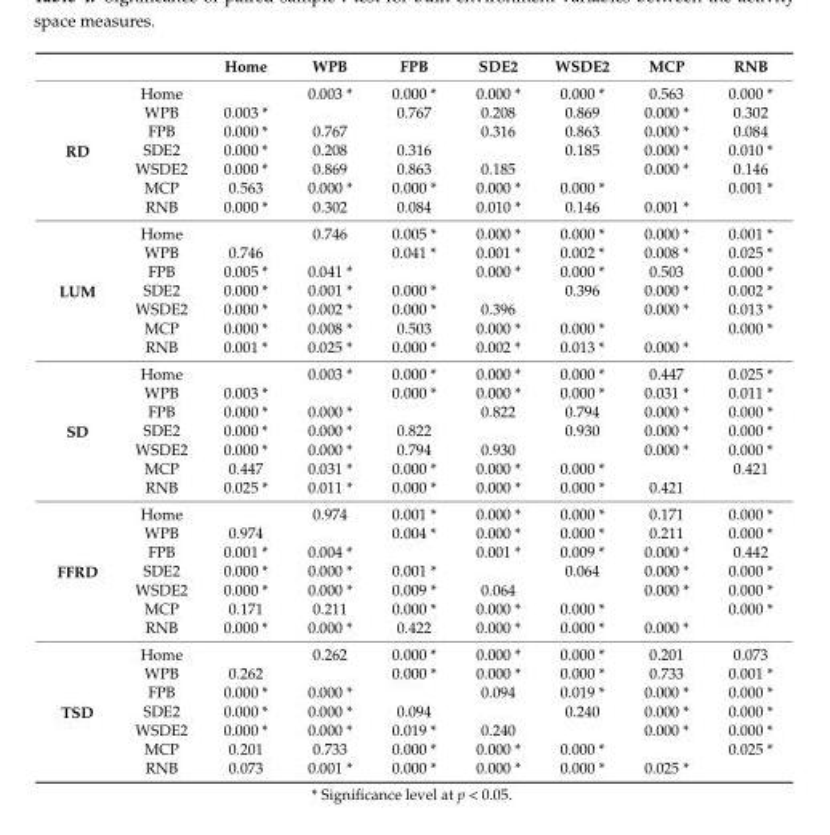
<table><thead><tr><td></td><td></td><td>Home</td><td>WPB</td><td>FPB</td><td>SDE2</td><td>WSDE2</td><td>MCP</td><td>RNB</td></tr></thead><tbody><tr><td rowspan="7">RD</td><td>Home</td><td></td><td>0.003 *</td><td>0.000 *</td><td>0.000 *</td><td>0.000 *</td><td>0.563</td><td>0.000 *</td></tr><tr><td>WPB</td><td>0.003 *</td><td></td><td>0.767</td><td>0.208</td><td>0.869</td><td>0.000 *</td><td>0.302</td></tr><tr><td>FPB</td><td>0.000 *</td><td>0.767</td><td></td><td>0.316</td><td>0.863</td><td>0.000 *</td><td>0.084</td></tr><tr><td>SDE2</td><td>0.000 *</td><td>0.208</td><td>0.316</td><td></td><td>0.185</td><td>0.000 *</td><td>0.010 *</td></tr><tr><td>WSDE2</td><td>0.000 *</td><td>0.869</td><td>0.863</td><td>0.185</td><td></td><td>0.000 *</td><td>0.146</td></tr><tr><td>MCP</td><td>0.563</td><td>0.000 *</td><td>0.000 *</td><td>0.000 *</td><td>0.000 *</td><td></td><td>0.001 *</td></tr><tr><td>RNB</td><td>0.000 *</td><td>0.302</td><td>0.084</td><td>0.010 *</td><td>0.146</td><td>0.001 *</td><td></td></tr><tr><td rowspan="7">LUM</td><td>Home</td><td></td><td>0.746</td><td>0.005 *</td><td>0.000 *</td><td>0.000 *</td><td>0.000 *</td><td>0.001 *</td></tr><tr><td>WPB</td><td>0.746</td><td></td><td>0.041 *</td><td>0.001 *</td><td>0.002 *</td><td>0.008 *</td><td>0.025 *</td></tr><tr><td>FPB</td><td>0.005 *</td><td>0.041 *</td><td></td><td>0.000 *</td><td>0.000 *</td><td>0.503</td><td>0.000 *</td></tr><tr><td>SDE2</td><td>0.000 *</td><td>0.001 *</td><td>0.000 *</td><td></td><td>0.396</td><td>0.000 *</td><td>0.002 *</td></tr><tr><td>WSDE2</td><td>0.000 *</td><td>0.002 *</td><td>0.000 *</td><td>0.396</td><td></td><td>0.000 *</td><td>0.013 *</td></tr><tr><td>MCP</td><td>0.000 *</td><td>0.008 *</td><td>0.503</td><td>0.000 *</td><td>0.000 *</td><td></td><td>0.000 *</td></tr><tr><td>RNB</td><td>0.001 *</td><td>0.025 *</td><td>0.000 *</td><td>0.002 *</td><td>0.013 *</td><td>0.000 *</td><td></td></tr><tr><td rowspan="7">SD</td><td>Home</td><td></td><td>0.003 *</td><td>0.000 *</td><td>0.000 *</td><td>0.000 *</td><td>0.447</td><td>0.025 *</td></tr><tr><td>WPB</td><td>0.003 *</td><td></td><td>0.000 *</td><td>0.000 *</td><td>0.000 *</td><td>0.031 *</td><td>0.011 *</td></tr><tr><td>FPB</td><td>0.000 *</td><td>0.000 *</td><td></td><td>0.822</td><td>0.794</td><td>0.000 *</td><td>0.000 *</td></tr><tr><td>SDE2</td><td>0.000 *</td><td>0.000 *</td><td>0.822</td><td></td><td>0.930</td><td>0.000 *</td><td>0.000 *</td></tr><tr><td>WSDE2</td><td>0.000 *</td><td>0.000 *</td><td>0.794</td><td>0.930</td><td></td><td>0.000 *</td><td>0.000 *</td></tr><tr><td>MCP</td><td>0.447</td><td>0.031 *</td><td>0.000 *</td><td>0.000 *</td><td>0.000 *</td><td></td><td>0.421</td></tr><tr><td>RNB</td><td>0.025 *</td><td>0.011 *</td><td>0.000 *</td><td>0.000 *</td><td>0.000 *</td><td>0.421</td><td></td></tr><tr><td rowspan="7">FFRD</td><td>Home</td><td></td><td>0.974</td><td>0.001 *</td><td>0.000 *</td><td>0.000 *</td><td>0.171</td><td>0.000 *</td></tr><tr><td>WPB</td><td>0.974</td><td></td><td>0.004 *</td><td>0.000 *</td><td>0.000 *</td><td>0.211</td><td>0.000 *</td></tr><tr><td>FPB</td><td>0.001 *</td><td>0.004 *</td><td></td><td>0.001 *</td><td>0.009 *</td><td>0.000 *</td><td>0.442</td></tr><tr><td>SDE2</td><td>0.000 *</td><td>0.000 *</td><td>0.001 *</td><td></td><td>0.064</td><td>0.000 *</td><td>0.000 *</td></tr><tr><td>WSDE2</td><td>0.000 *</td><td>0.000 *</td><td>0.009 *</td><td>0.064</td><td></td><td>0.000 *</td><td>0.000 *</td></tr><tr><td>MCP</td><td>0.171</td><td>0.211</td><td>0.000 *</td><td>0.000 *</td><td>0.000 *</td><td></td><td>0.000 *</td></tr><tr><td>RNB</td><td>0.000 *</td><td>0.000 *</td><td>0.422</td><td>0.000 *</td><td>0.000 *</td><td>0.000 *</td><td></td></tr><tr><td rowspan="7">TSD</td><td>Home</td><td></td><td>0.262</td><td>0.000 *</td><td>0.000 *</td><td>0.000 *</td><td>0.201</td><td>0.073</td></tr><tr><td>WPB</td><td>0.262</td><td></td><td>0.000 *</td><td>0.000 *</td><td>0.000 *</td><td>0.733</td><td>0.001 *</td></tr><tr><td>FPB</td><td>0.000 *</td><td>0.000 *</td><td></td><td>0.094</td><td>0.019 *</td><td>0.000 *</td><td>0.000 *</td></tr><tr><td>SDE2</td><td>0.000 *</td><td>0.000 *</td><td>0.094</td><td></td><td>0.240</td><td>0.000 *</td><td>0.000 *</td></tr><tr><td>WSDE2</td><td>0.000 *</td><td>0.000 *</td><td>0.019 *</td><td>0.240</td><td></td><td>0.000 *</td><td>0.000 *</td></tr><tr><td>MCP</td><td>0.201</td><td>0.733</td><td>0.000 *</td><td>0.000 *</td><td>0.000 *</td><td></td><td>0.025 *</td></tr><tr><td>RNB</td><td>0.073</td><td>0.001 *</td><td>0.000 *</td><td>0.000 *</td><td>0.000 *</td><td>0.025 *</td><td></td></tr></tbody></table>